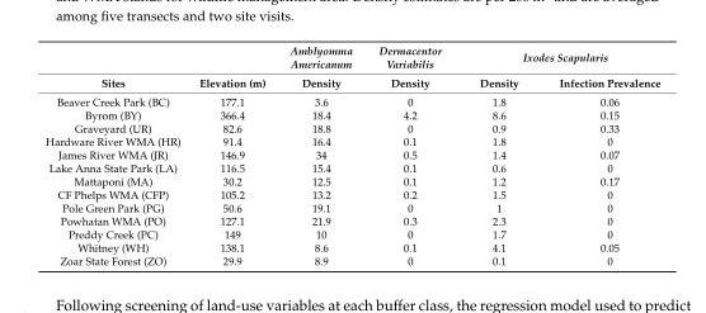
<table><thead><tr><td rowspan="2">Sites</td><td rowspan="2">Elevation (m)</td><td rowspan="2">Amblyomma Americanum Density</td><td rowspan="2">Dermacentor Variabilis Density</td><td colspan="2">Ixodes Scapularis</td></tr><tr><td>Density</td><td>Infection Prevalence</td></tr></thead><tbody><tr><td>Beaver Creek Park (BC)</td><td>177.1</td><td>3.6</td><td>0</td><td>1.8</td><td>0.06</td></tr><tr><td>Byrom (BY)</td><td>366.4</td><td>18.4</td><td>4.2</td><td>8.6</td><td>0.15</td></tr><tr><td>Graveyard (UR)</td><td>82.6</td><td>18.8</td><td>0</td><td>0.9</td><td>0.33</td></tr><tr><td>Hardware River WMA (HR)</td><td>91.4</td><td>16.4</td><td>0.1</td><td>1.8</td><td>0</td></tr><tr><td>James River WMA (JR)</td><td>146.9</td><td>34</td><td>0.5</td><td>1.4</td><td>0.07</td></tr><tr><td>Lake Anna State Park (LA)</td><td>116.5</td><td>15.4</td><td>0.1</td><td>0.6</td><td>0</td></tr><tr><td>Mattaponi (MA)</td><td>30.2</td><td>12.5</td><td>0.1</td><td>1.2</td><td>0.17</td></tr><tr><td>CF Phelps WMA (CFP)</td><td>105.2</td><td>13.2</td><td>0.2</td><td>1.5</td><td>0</td></tr><tr><td>Pole Green Park (PG)</td><td>50.6</td><td>19.1</td><td>0</td><td>1</td><td>0</td></tr><tr><td>Powhatan WMA (PO)</td><td>127.1</td><td>21.9</td><td>0.3</td><td>2.3</td><td>0</td></tr><tr><td>Preddy Creek (PC)</td><td>149</td><td>10</td><td>0</td><td>1.7</td><td>0</td></tr><tr><td>Whitney (WH)</td><td>138.1</td><td>8.6</td><td>0.1</td><td>4.1</td><td>0.05</td></tr><tr><td>Zoar State Forest (ZO)</td><td>29.9</td><td>8.9</td><td>0</td><td>0.1</td><td>0</td></tr></tbody></table>